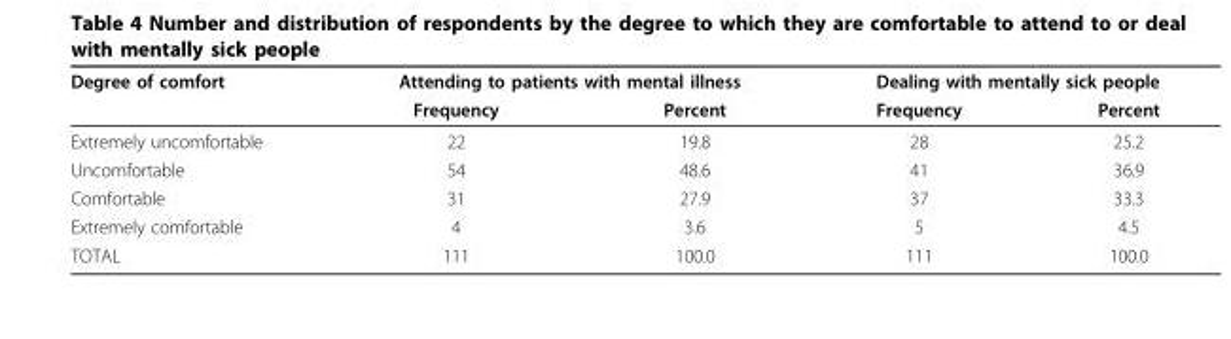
<table><thead><tr><td rowspan="2">Degree of comfort</td><td colspan="2">Attending to patients with mental illness</td><td colspan="2">Dealing with mentally sick people</td></tr><tr><td>Frequency</td><td>Percent</td><td>Frequency</td><td>Percent</td></tr></thead><tbody><tr><td>Extremely uncomfortable</td><td>22</td><td>19.8</td><td>28</td><td>25.2</td></tr><tr><td>Uncomfortable</td><td>54</td><td>48.6</td><td>41</td><td>36.9</td></tr><tr><td>Comfortable</td><td>31</td><td>27.9</td><td>37</td><td>33.3</td></tr><tr><td>Extremely comfortable</td><td>4</td><td>3.6</td><td>5</td><td>4.5</td></tr><tr><td>TOTAL</td><td>111</td><td>100.0</td><td>111</td><td>100.0</td></tr></tbody></table>